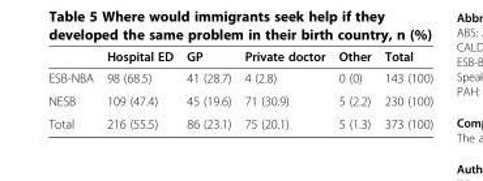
<table><thead><tr><td></td><td>Hospital ED</td><td>GP</td><td>Private doctor</td><td>Other</td><td>Total</td></tr></thead><tbody><tr><td>ESB-NBA</td><td>98 (68.5)</td><td>41 (28.7)</td><td>4 (2.8)</td><td>0 (0)</td><td>143 (100)</td></tr><tr><td>NESB</td><td>109 (47.4)</td><td>45 (19.6)</td><td>71 (30.9)</td><td>5 (2.2)</td><td>230 (100)</td></tr><tr><td>Total</td><td>216 (55.5)</td><td>86 (23.1)</td><td>75 (20.1)</td><td>5 (1.3)</td><td>373 (100)</td></tr></tbody></table>